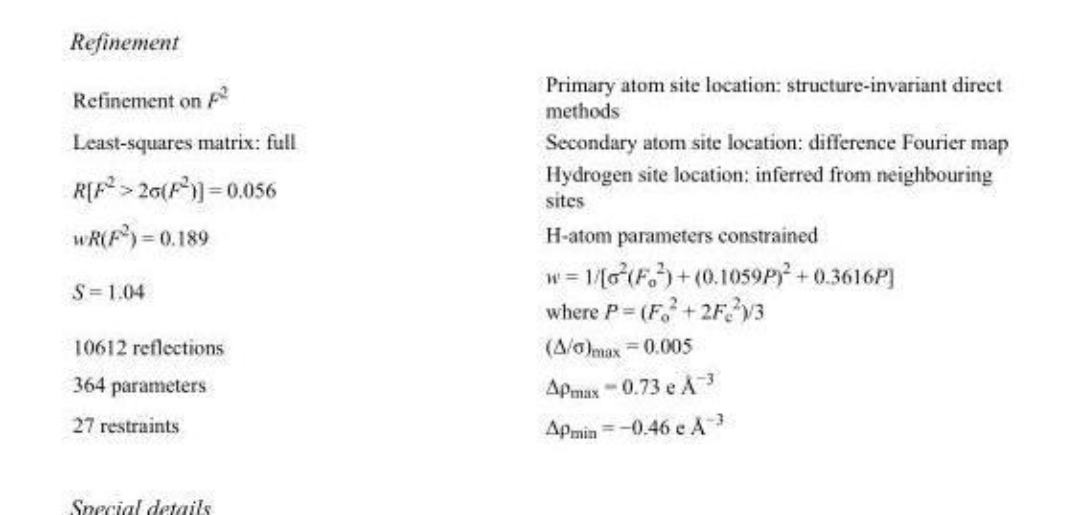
<table><tbody><tr><td>Refinement on F<sup>2</sup></td><td>Primary atom site location: structure-invariant direct methods</td></tr><tr><td>Least-squares matrix: full</td><td>Secondary atom site location: difference Fourier map</td></tr><tr><td>R[F<sup>2</sup> &gt; 2σ(F<sup>2</sup>)] = 0.056</td><td>Hydrogen site location: inferred from neighbouring sites</td></tr><tr><td>wR(F<sup>2</sup>) = 0.189</td><td>H-atom parameters constrained</td></tr><tr><td>S = 1.04</td><td>w = 1/[σ<sup>2</sup>(F<sub>o</sub> <sup>2</sup>) + (0.1059P)<sup>2</sup> + 0.3616P] where P = (F<sub>o</sub> <sup>2</sup> + 2F<sub>c</sub> <sup>2</sup>)/3</td></tr><tr><td>10612 reflections</td><td>(Δ/σ)<sub>max</sub> = 0.005</td></tr><tr><td>364 parameters</td><td>Δρ<sub>max</sub> = 0.73 e Å<sup>−3</sup></td></tr><tr><td>27 restraints</td><td>Δρ<sub>min</sub> = −0.46 e Å<sup>−3</sup></td></tr></tbody></table>